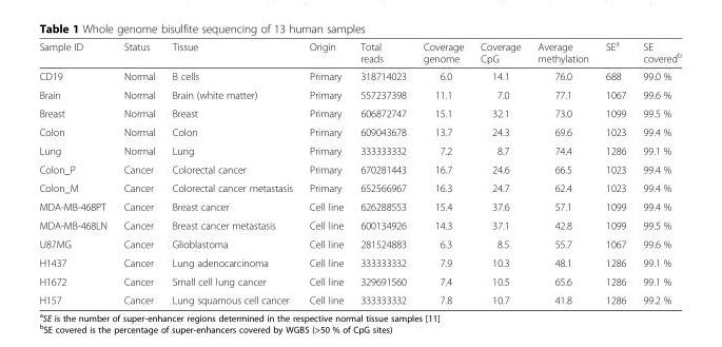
<table><thead><tr><td>Sample ID</td><td>Status</td><td>Tissue</td><td>Origin</td><td>Total reads</td><td>Coverage genome</td><td>Coverage CpG</td><td>Average methylation</td><td>SE<sup>a</sup></td><td>SE covered<sup>b</sup></td></tr></thead><tbody><tr><td>CD19</td><td>Normal</td><td>B cells</td><td>Primary</td><td>318714023</td><td>6.0</td><td>14.1</td><td>76.0</td><td>688</td><td>99.0 %</td></tr><tr><td>Brain</td><td>Normal</td><td>Brain (white matter)</td><td>Primary</td><td>557237398</td><td>11.1</td><td>7.0</td><td>77.1</td><td>1067</td><td>99.6 %</td></tr><tr><td>Breast</td><td>Normal</td><td>Breast</td><td>Primary</td><td>606872747</td><td>15.1</td><td>32.1</td><td>73.0</td><td>1099</td><td>99.5 %</td></tr><tr><td>Colon</td><td>Normal</td><td>Colon</td><td>Primary</td><td>609043678</td><td>13.7</td><td>24.3</td><td>69.6</td><td>1023</td><td>99.4 %</td></tr><tr><td>Lung</td><td>Normal</td><td>Lung</td><td>Primary</td><td>333333332</td><td>7.2</td><td>8.7</td><td>74.4</td><td>1286</td><td>99.1 %</td></tr><tr><td>Colon_P</td><td>Cancer</td><td>Colorectal cancer</td><td>Primary</td><td>670281443</td><td>16.7</td><td>24.6</td><td>66.5</td><td>1023</td><td>99.4 %</td></tr><tr><td>Colon_M</td><td>Cancer</td><td>Colorectal cancer metastasis</td><td>Primary</td><td>652566967</td><td>16.3</td><td>24.7</td><td>62.4</td><td>1023</td><td>99.4 %</td></tr><tr><td>MDA-MB-468PT</td><td>Cancer</td><td>Breast cancer</td><td>Cell line</td><td>626288553</td><td>15.4</td><td>37.6</td><td>57.1</td><td>1099</td><td>99.4 %</td></tr><tr><td>MDA-MB-468LN</td><td>Cancer</td><td>Breast cancer metastasis</td><td>Cell line</td><td>600134926</td><td>14.3</td><td>37.1</td><td>42.8</td><td>1099</td><td>99.5 %</td></tr><tr><td>U87MG</td><td>Cancer</td><td>Glioblastoma</td><td>Cell line</td><td>281524883</td><td>6.3</td><td>8.5</td><td>55.7</td><td>1067</td><td>99.6 %</td></tr><tr><td>H1437</td><td>Cancer</td><td>Lung adenocarcinoma</td><td>Cell line</td><td>333333332</td><td>7.9</td><td>10.3</td><td>48.1</td><td>1286</td><td>99.1 %</td></tr><tr><td>H1672</td><td>Cancer</td><td>Small cell lung cancer</td><td>Cell line</td><td>329691560</td><td>7.4</td><td>10.5</td><td>65.6</td><td>1286</td><td>99.1 %</td></tr><tr><td>H157</td><td>Cancer</td><td>Lung squamous cell cancer</td><td>Cell line</td><td>333333332</td><td>7.8</td><td>10.7</td><td>41.8</td><td>1286</td><td>99.2 %</td></tr></tbody></table>